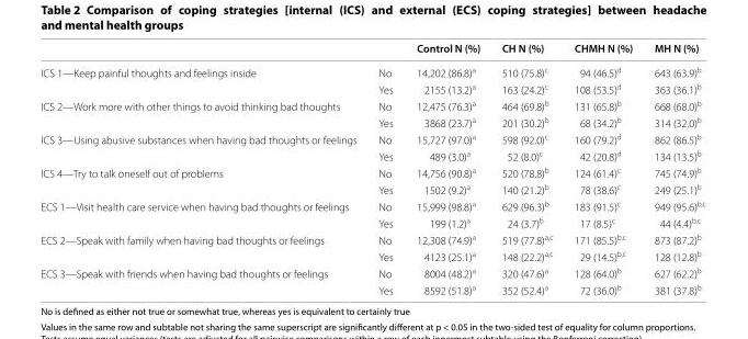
<table><thead><tr><td></td><td></td><td>Control N (%)</td><td>CH N (%)</td><td>CHMH N (%)</td><td>MH N (%)</td></tr></thead><tbody><tr><td rowspan="2">ICS 1—Keep painful thoughts and feelings inside</td><td>No</td><td>14,202 (86.8)<sup>a</sup></td><td>510 (75.8)<sup>c</sup></td><td>94 (46.5)<sup>d</sup></td><td>643 (63.9)<sup>b</sup></td></tr><tr><td>Yes</td><td>2155 (13.2)<sup>a</sup></td><td>163 (24.2)<sup>c</sup></td><td>108 (53.5)<sup>d</sup></td><td>363 (36.1)<sup>b</sup></td></tr><tr><td rowspan="2">ICS 2—Work more with other things to avoid thinking bad thoughts</td><td>No</td><td>12,475 (76.3)<sup>a</sup></td><td>464 (69.8)<sup>b</sup></td><td>131 (65.8)<sup>b</sup></td><td>668 (68.0)<sup>b</sup></td></tr><tr><td>Yes</td><td>3868 (23.7)<sup>a</sup></td><td>201 (30.2)<sup>b</sup></td><td>68 (34.2)<sup>b</sup></td><td>314 (32.0)<sup>b</sup></td></tr><tr><td rowspan="2">ICS 3—Using abusive substances when having bad thoughts or feelings</td><td>No</td><td>15,727 (97.0)<sup>a</sup></td><td>598 (92.0)<sup>c</sup></td><td>160 (79.2)<sup>d</sup></td><td>862 (86.5)<sup>b</sup></td></tr><tr><td>Yes</td><td>489 (3.0)<sup>a</sup></td><td>52 (8.0)<sup>c</sup></td><td>42 (20.8)<sup>d</sup></td><td>134 (13.5)<sup>b</sup></td></tr><tr><td rowspan="2">ICS 4—Try to talk oneself out of problems</td><td>No</td><td>14,756 (90.8)<sup>a</sup></td><td>520 (78.8)<sup>b</sup></td><td>124 (61.4)<sup>c</sup></td><td>745 (74.9)<sup>b</sup></td></tr><tr><td>Yes</td><td>1502 (9.2)<sup>a</sup></td><td>140 (21.2)<sup>b</sup></td><td>78 (38.6)<sup>c</sup></td><td>249 (25.1)<sup>b</sup></td></tr><tr><td rowspan="2">ECS 1—Visit health care service when having bad thoughts or feelings</td><td>No</td><td>15,999 (98.8)<sup>a</sup></td><td>629 (96.3)<sup>b</sup></td><td>183 (91.5)<sup>c</sup></td><td>949 (95.6)<sup>b,c</sup></td></tr><tr><td>Yes</td><td>199 (1.2)<sup>a</sup></td><td>24 (3.7)<sup>b</sup></td><td>17 (8.5)<sup>c</sup></td><td>44 (4.4)<sup>b,c</sup></td></tr><tr><td rowspan="2">ECS 2—Speak with family when having bad thoughts or feelings</td><td>No</td><td>12,308 (74.9)<sup>a</sup></td><td>519 (77.8)<sup>a,c</sup></td><td>171 (85.5)<sup>b,c</sup></td><td>873 (87.2)<sup>b</sup></td></tr><tr><td>Yes</td><td>4123 (25.1)<sup>a</sup></td><td>148 (22.2)<sup>a,c</sup></td><td>29 (14.5)<sup>b,c</sup></td><td>128 (12.8)<sup>b</sup></td></tr><tr><td rowspan="2">ECS 3—Speak with friends when having bad thoughts or feelings</td><td>No</td><td>8004 (48.2)<sup>a</sup></td><td>320 (47.6)<sup>a</sup></td><td>128 (64.0)<sup>b</sup></td><td>627 (62.2)<sup>b</sup></td></tr><tr><td>Yes</td><td>8592 (51.8)<sup>a</sup></td><td>352 (52.4)<sup>a</sup></td><td>72 (36.0)<sup>b</sup></td><td>381 (37.8)<sup>b</sup></td></tr></tbody></table>